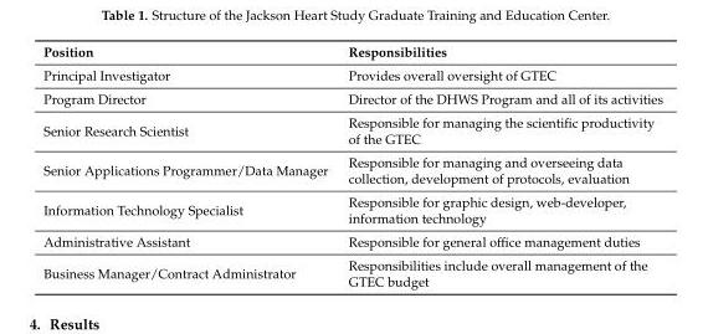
<table><thead><tr><td>Position</td><td>Responsibilities</td></tr></thead><tbody><tr><td>Principal Investigator</td><td>Provides overall oversight of GTEC</td></tr><tr><td>Program Director</td><td>Director of the DHWS Program and all of its activities</td></tr><tr><td>Senior Research Scientist</td><td>Responsible for managing the scientific productivity of the GTEC</td></tr><tr><td>Senior Applications Programmer/Data Manager</td><td>Responsible for managing and overseeing data collection, development of protocols, evaluation</td></tr><tr><td>Information Technology Specialist</td><td>Responsible for graphic design, web-developer, information technology</td></tr><tr><td>Administrative Assistant</td><td>Responsible for general office management duties</td></tr><tr><td>Business Manager/Contract Administrator</td><td>Responsibilities include overall management of the GTEC budget</td></tr></tbody></table>